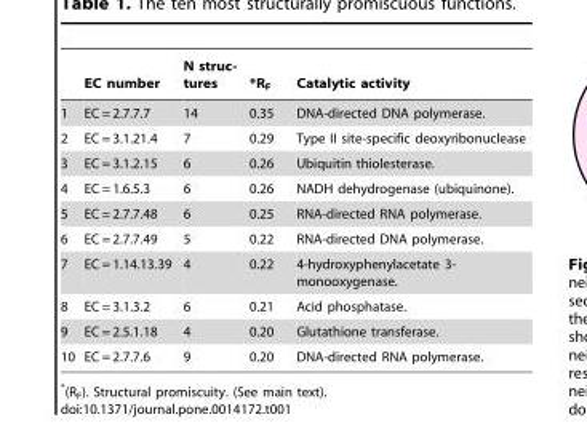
<table><thead><tr><td></td><td>EC number</td><td>N struc- tures</td><td>*R<sub>F</sub></td><td>Catalytic activity</td></tr></thead><tbody><tr><td>1</td><td>EC = 2.7.7.7</td><td>14</td><td>0.35</td><td>DNA-directed DNA polymerase.</td></tr><tr><td>2</td><td>EC = 3.1.21.4</td><td>7</td><td>0.29</td><td>Type II site-specific deoxyribonuclease</td></tr><tr><td>3</td><td>EC = 3.1.2.15</td><td>6</td><td>0.26</td><td>Ubiquitin thiolesterase.</td></tr><tr><td>4</td><td>EC = 1.6.5.3</td><td>6</td><td>0.26</td><td>NADH dehydrogenase (ubiquinone).</td></tr><tr><td>5</td><td>EC = 2.7.7.48</td><td>6</td><td>0.25</td><td>RNA-directed RNA polymerase.</td></tr><tr><td>6</td><td>EC = 2.7.7.49</td><td>5</td><td>0.22</td><td>RNA-directed DNA polymerase.</td></tr><tr><td>7</td><td>EC = 1.14.13.39</td><td>4</td><td>0.22</td><td>4-hydroxyphenylacetate 3- monooxygenase.</td></tr><tr><td>8</td><td>EC = 3.1.3.2</td><td>6</td><td>0.21</td><td>Acid phosphatase.</td></tr><tr><td>9</td><td>EC = 2.5.1.18</td><td>4</td><td>0.20</td><td>Glutathione transferase.</td></tr><tr><td>10</td><td>EC = 2.7.7.6</td><td>9</td><td>0.20</td><td>DNA-directed RNA polymerase.</td></tr></tbody></table>